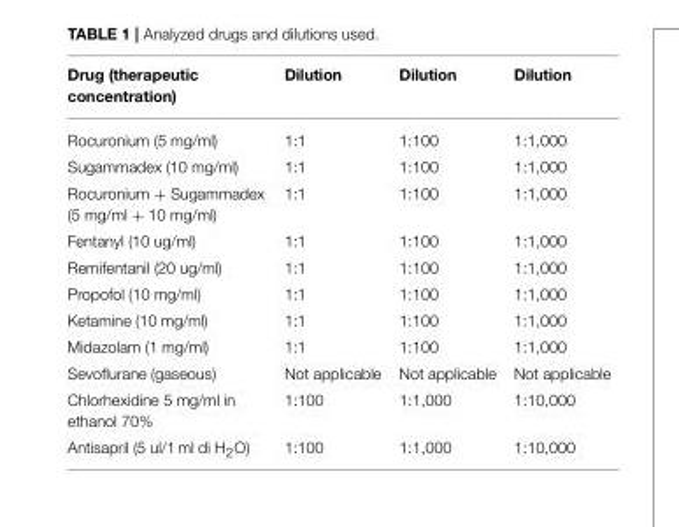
<table><thead><tr><td>Drug (therapeutic concentration)</td><td>Dilution</td><td>Dilution</td><td>Dilution</td></tr></thead><tbody><tr><td>Rocuronium (5 mg/ml)</td><td>1:1</td><td>1:100</td><td>1:1,000</td></tr><tr><td>Sugammadex (10 mg/ml)</td><td>1:1</td><td>1:100</td><td>1:1,000</td></tr><tr><td>Rocuronium + Sugammadex (5 mg/ml + 10 mg/ml)</td><td>1:1</td><td>1:100</td><td>1:1,000</td></tr><tr><td>Fentanyl (10 ug/ml)</td><td>1:1</td><td>1:100</td><td>1:1,000</td></tr><tr><td>Remifentanil (20 ug/ml)</td><td>1:1</td><td>1:100</td><td>1:1,000</td></tr><tr><td>Propofol (10 mg/ml)</td><td>1:1</td><td>1:100</td><td>1:1,000</td></tr><tr><td>Ketamine (10 mg/ml)</td><td>1:1</td><td>1:100</td><td>1:1,000</td></tr><tr><td>Midazolam (1 mg/ml)</td><td>1:1</td><td>1:100</td><td>1:1,000</td></tr><tr><td>Sevoflurane (gaseous)</td><td>Not applicable</td><td>Not applicable</td><td>Not applicable</td></tr><tr><td>Chlorhexidine 5 mg/ml in ethanol 70%</td><td>1:100</td><td>1:1,000</td><td>1:10,000</td></tr><tr><td>Antisapril (5 ul/1 ml di H<sub>2</sub>O)</td><td>1:100</td><td>1:1,000</td><td>1:10,000</td></tr></tbody></table>